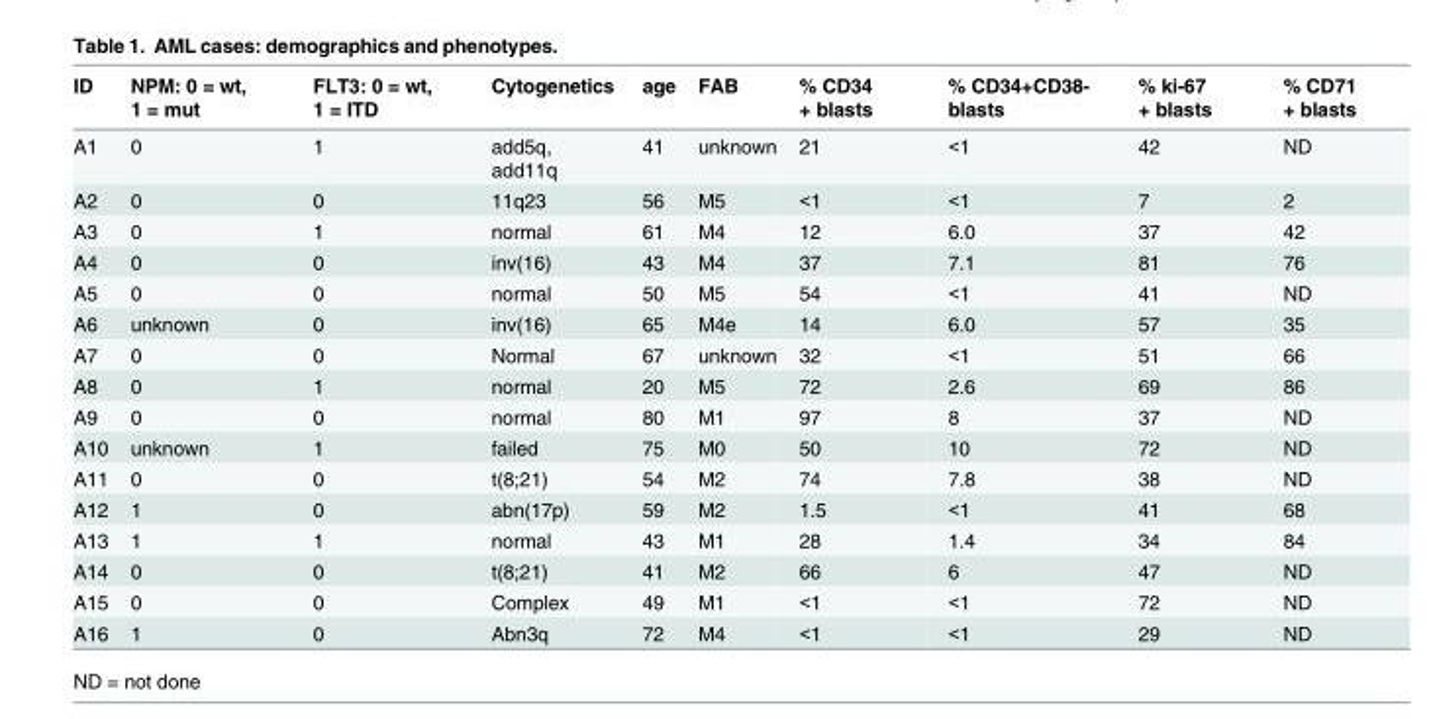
<table><thead><tr><td>ID</td><td>NPM: 0 = wt, 1 = mut</td><td>FLT3: 0 = wt, 1 = ITD</td><td>Cytogenetics</td><td>age</td><td>FAB</td><td>% CD34 + blasts</td><td>% CD34+CD38- blasts</td><td>% ki-67 + blasts</td><td>% CD71 + blasts</td></tr></thead><tbody><tr><td>A1</td><td>0</td><td>1</td><td>add5q, add11q</td><td>41</td><td>unknown</td><td>21</td><td>&lt;1</td><td>42</td><td>ND</td></tr><tr><td>A2</td><td>0</td><td>0</td><td>11q23</td><td>56</td><td>M5</td><td>&lt;1</td><td>&lt;1</td><td>7</td><td>2</td></tr><tr><td>A3</td><td>0</td><td>1</td><td>normal</td><td>61</td><td>M4</td><td>12</td><td>6.0</td><td>37</td><td>42</td></tr><tr><td>A4</td><td>0</td><td>0</td><td>inv(16)</td><td>43</td><td>M4</td><td>37</td><td>7.1</td><td>81</td><td>76</td></tr><tr><td>A5</td><td>0</td><td>0</td><td>normal</td><td>50</td><td>M5</td><td>54</td><td>&lt;1</td><td>41</td><td>ND</td></tr><tr><td>A6</td><td>unknown</td><td>0</td><td>inv(16)</td><td>65</td><td>M4e</td><td>14</td><td>6.0</td><td>57</td><td>35</td></tr><tr><td>A7</td><td>0</td><td>0</td><td>Normal</td><td>67</td><td>unknown</td><td>32</td><td>&lt;1</td><td>51</td><td>66</td></tr><tr><td>A8</td><td>0</td><td>1</td><td>normal</td><td>20</td><td>M5</td><td>72</td><td>2.6</td><td>69</td><td>86</td></tr><tr><td>A9</td><td>0</td><td>0</td><td>normal</td><td>80</td><td>M1</td><td>97</td><td>8</td><td>37</td><td>ND</td></tr><tr><td>A10</td><td>unknown</td><td>1</td><td>failed</td><td>75</td><td>M0</td><td>50</td><td>10</td><td>72</td><td>ND</td></tr><tr><td>A11</td><td>0</td><td>0</td><td>t(8;21)</td><td>54</td><td>M2</td><td>74</td><td>7.8</td><td>38</td><td>ND</td></tr><tr><td>A12</td><td>1</td><td>0</td><td>abn(17p)</td><td>59</td><td>M2</td><td>1.5</td><td>&lt;1</td><td>41</td><td>68</td></tr><tr><td>A13</td><td>1</td><td>1</td><td>normal</td><td>43</td><td>M1</td><td>28</td><td>1.4</td><td>34</td><td>84</td></tr><tr><td>A14</td><td>0</td><td>0</td><td>t(8;21)</td><td>41</td><td>M2</td><td>66</td><td>6</td><td>47</td><td>ND</td></tr><tr><td>A15</td><td>0</td><td>0</td><td>Complex</td><td>49</td><td>M1</td><td>&lt;1</td><td>&lt;1</td><td>72</td><td>ND</td></tr><tr><td>A16</td><td>1</td><td>0</td><td>Abn3q</td><td>72</td><td>M4</td><td>&lt;1</td><td>&lt;1</td><td>29</td><td>ND</td></tr></tbody></table>